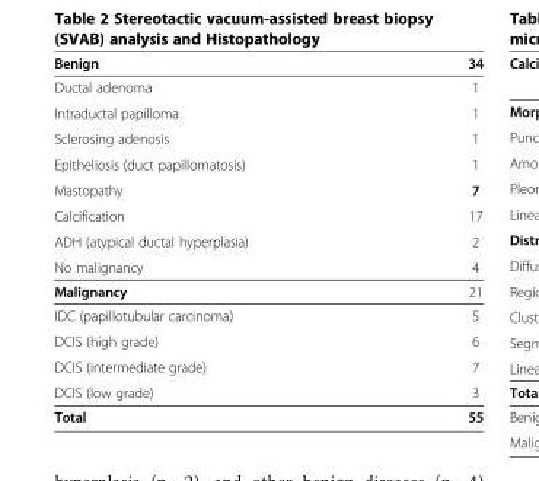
<table><thead><tr><td>Benign</td><td>34</td></tr></thead><tbody><tr><td>Ductal adenoma</td><td>1</td></tr><tr><td>Intraductal papilloma</td><td>1</td></tr><tr><td>Sclerosing adenosis</td><td>1</td></tr><tr><td>Epitheliosis (duct papillomatosis)</td><td>1</td></tr><tr><td>Mastopathy</td><td>7</td></tr><tr><td>Calcification</td><td>17</td></tr><tr><td>ADH (atypical ductal hyperplasia)</td><td>2</td></tr><tr><td>No malignancy</td><td>4</td></tr><tr><td>Malignancy</td><td>21</td></tr><tr><td>IDC (papillotubular carcinoma)</td><td>5</td></tr><tr><td>DCIS (high grade)</td><td>6</td></tr><tr><td>DCIS (intermediate grade)</td><td>7</td></tr><tr><td>DCIS (low grade)</td><td>3</td></tr><tr><td>Total</td><td>55</td></tr></tbody></table>